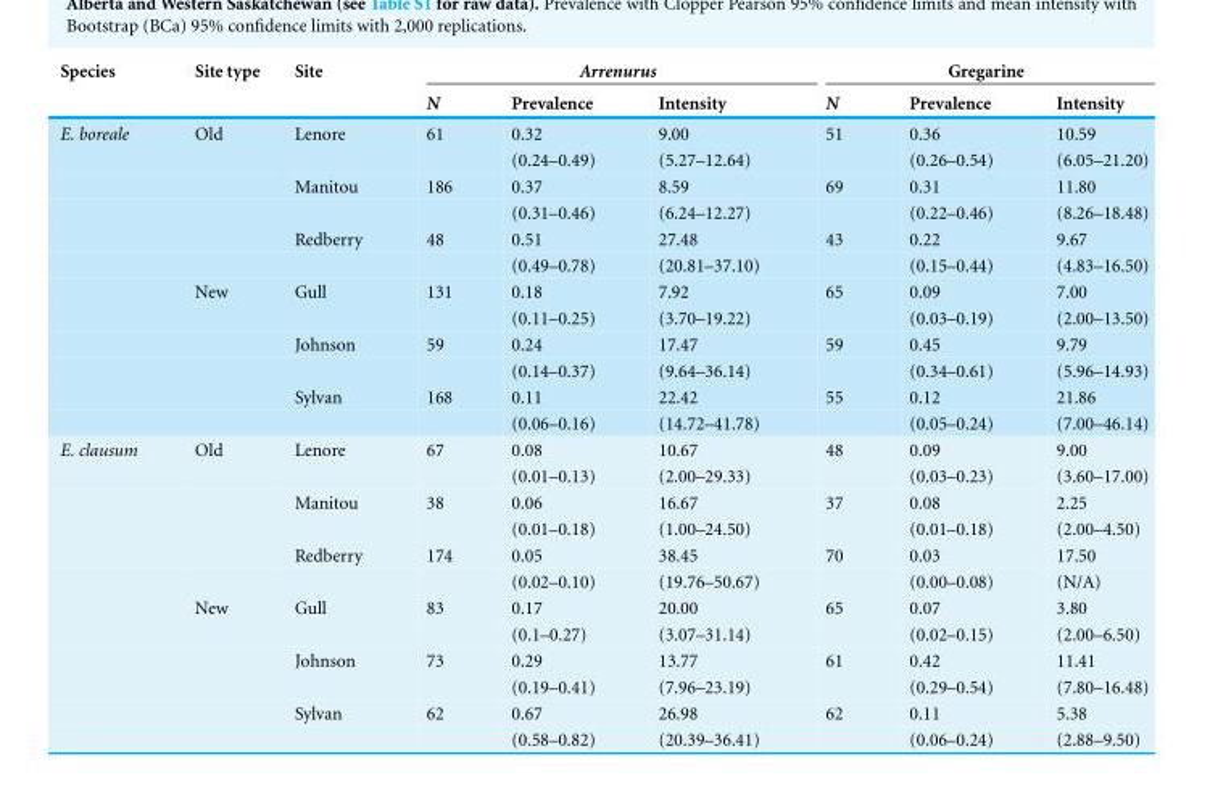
<table><thead><tr><td rowspan="2">Species</td><td rowspan="2">Site type</td><td rowspan="2">Site</td><td colspan="3">Arrenurus</td><td colspan="3">Gregarine</td></tr><tr><td>N</td><td>Prevalence</td><td>Intensity</td><td>N</td><td>Prevalence</td><td>Intensity</td></tr></thead><tbody><tr><td rowspan="12">E. boreale</td><td>Old</td><td>Lenore</td><td>61</td><td>0.32</td><td>9.00</td><td>51</td><td>0.36</td><td>10.59</td></tr><tr><td></td><td></td><td></td><td>(0.24–0.49)</td><td>(5.27–12.64)</td><td></td><td>(0.26–0.54)</td><td>(6.05–21.20)</td></tr><tr><td></td><td>Manitou</td><td>186</td><td>0.37</td><td>8.59</td><td>69</td><td>0.31</td><td>11.80</td></tr><tr><td></td><td></td><td></td><td>(0.31–0.46)</td><td>(6.24–12.27)</td><td></td><td>(0.22–0.46)</td><td>(8.26–18.48)</td></tr><tr><td></td><td>Redberry</td><td>48</td><td>0.51</td><td>27.48</td><td>43</td><td>0.22</td><td>9.67</td></tr><tr><td></td><td></td><td></td><td>(0.49–0.78)</td><td>(20.81–37.10)</td><td></td><td>(0.15–0.44)</td><td>(4.83–16.50)</td></tr><tr><td>New</td><td>Gull</td><td>131</td><td>0.18</td><td>7.92</td><td>65</td><td>0.09</td><td>7.00</td></tr><tr><td></td><td></td><td></td><td>(0.11–0.25)</td><td>(3.70–19.22)</td><td></td><td>(0.03–0.19)</td><td>(2.00–13.50)</td></tr><tr><td></td><td>Johnson</td><td>59</td><td>0.24</td><td>17.47</td><td>59</td><td>0.45</td><td>9.79</td></tr><tr><td></td><td></td><td></td><td>(0.14–0.37)</td><td>(9.64–36.14)</td><td></td><td>(0.34–0.61)</td><td>(5.96–14.93)</td></tr><tr><td></td><td>Sylvan</td><td>168</td><td>0.11</td><td>22.42</td><td>55</td><td>0.12</td><td>21.86</td></tr><tr><td></td><td></td><td></td><td>(0.06–0.16)</td><td>(14.72–41.78)</td><td></td><td>(0.05–0.24)</td><td>(7.00–46.14)</td></tr><tr><td rowspan="12">E. clausum</td><td>Old</td><td>Lenore</td><td>67</td><td>0.08</td><td>10.67</td><td>48</td><td>0.09</td><td>9.00</td></tr><tr><td></td><td></td><td></td><td>(0.01–0.13)</td><td>(2.00–29.33)</td><td></td><td>(0.03–0.23)</td><td>(3.60–17.00)</td></tr><tr><td></td><td>Manitou</td><td>38</td><td>0.06</td><td>16.67</td><td>37</td><td>0.08</td><td>2.25</td></tr><tr><td></td><td></td><td></td><td>(0.01–0.18)</td><td>(1.00–24.50)</td><td></td><td>(0.01–0.18)</td><td>(2.00–4.50)</td></tr><tr><td></td><td>Redberry</td><td>174</td><td>0.05</td><td>38.45</td><td>70</td><td>0.03</td><td>17.50</td></tr><tr><td></td><td></td><td></td><td>(0.02–0.10)</td><td>(19.76–50.67)</td><td></td><td>(0.00–0.08)</td><td>(N/A)</td></tr><tr><td>New</td><td>Gull</td><td>83</td><td>0.17</td><td>20.00</td><td>65</td><td>0.07</td><td>3.80</td></tr><tr><td></td><td></td><td></td><td>(0.1–0.27)</td><td>(3.07–31.14)</td><td></td><td>(0.02–0.15)</td><td>(2.00–6.50)</td></tr><tr><td></td><td>Johnson</td><td>73</td><td>0.29</td><td>13.77</td><td>61</td><td>0.42</td><td>11.41</td></tr><tr><td></td><td></td><td></td><td>(0.19–0.41)</td><td>(7.96–23.19)</td><td></td><td>(0.29–0.54)</td><td>(7.80–16.48)</td></tr><tr><td></td><td>Sylvan</td><td>62</td><td>0.67</td><td>26.98</td><td>62</td><td>0.11</td><td>5.38</td></tr><tr><td></td><td></td><td></td><td>(0.58–0.82)</td><td>(20.39–36.41)</td><td></td><td>(0.06–0.24)</td><td>(2.88–9.50)</td></tr></tbody></table>